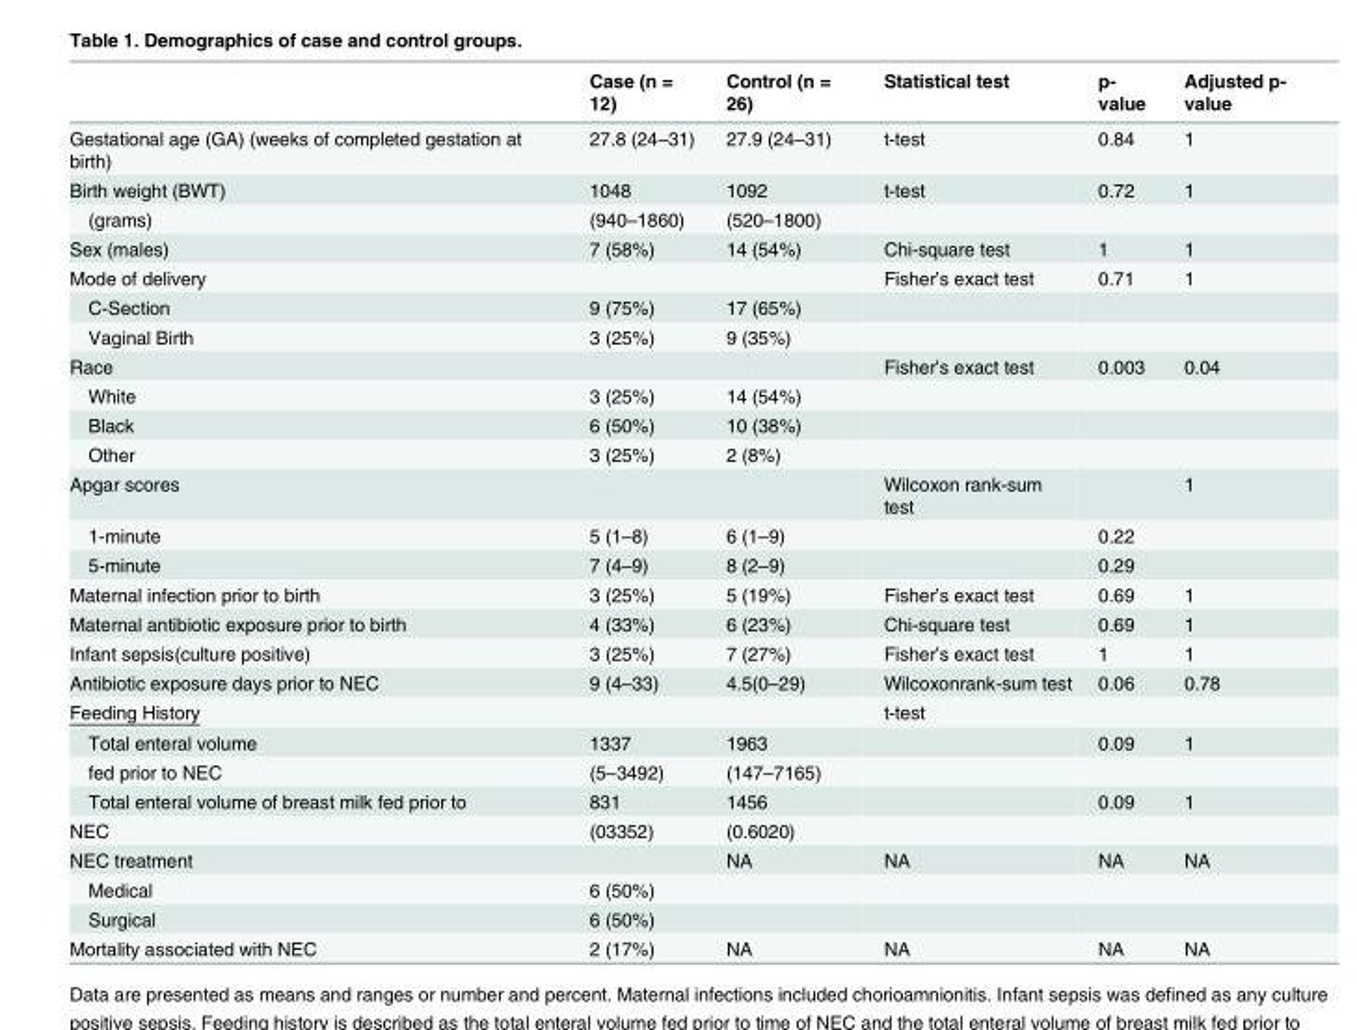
<table><thead><tr><td></td><td>Case (n = 12)</td><td>Control (n = 26)</td><td>Statistical test</td><td>p- value</td><td>Adjusted p- value</td></tr></thead><tbody><tr><td>Gestational age (GA) (weeks of completed gestation at birth)</td><td>27.8 (24–31)</td><td>27.9 (24–31)</td><td>t-test</td><td>0.84</td><td>1</td></tr><tr><td>Birth weight (BWT)</td><td>1048</td><td>1092</td><td>t-test</td><td>0.72</td><td>1</td></tr><tr><td>(grams)</td><td>(940–1860)</td><td>(520–1800)</td><td></td><td></td><td></td></tr><tr><td>Sex (males)</td><td>7 (58%)</td><td>14 (54%)</td><td>Chi-square test</td><td>1</td><td>1</td></tr><tr><td>Mode of delivery</td><td></td><td></td><td>Fisher’s exact test</td><td>0.71</td><td>1</td></tr><tr><td>C-Section</td><td>9 (75%)</td><td>17 (65%)</td><td></td><td></td><td></td></tr><tr><td>Vaginal Birth</td><td>3 (25%)</td><td>9 (35%)</td><td></td><td></td><td></td></tr><tr><td>Race</td><td></td><td></td><td>Fisher’s exact test</td><td>0.003</td><td>0.04</td></tr><tr><td>White</td><td>3 (25%)</td><td>14 (54%)</td><td></td><td></td><td></td></tr><tr><td>Black</td><td>6 (50%)</td><td>10 (38%)</td><td></td><td></td><td></td></tr><tr><td>Other</td><td>3 (25%)</td><td>2 (8%)</td><td></td><td></td><td></td></tr><tr><td>Apgar scores</td><td></td><td></td><td>Wilcoxon rank-sum test</td><td></td><td>1</td></tr><tr><td>1-minute</td><td>5 (1–8)</td><td>6 (1–9)</td><td></td><td>0.22</td><td></td></tr><tr><td>5-minute</td><td>7 (4–9)</td><td>8 (2–9)</td><td></td><td>0.29</td><td></td></tr><tr><td>Maternal infection prior to birth</td><td>3 (25%)</td><td>5 (19%)</td><td>Fisher’s exact test</td><td>0.69</td><td>1</td></tr><tr><td>Maternal antibiotic exposure prior to birth</td><td>4 (33%)</td><td>6 (23%)</td><td>Chi-square test</td><td>0.69</td><td>1</td></tr><tr><td>Infant sepsis(culture positive)</td><td>3 (25%)</td><td>7 (27%)</td><td>Fisher’s exact test</td><td>1</td><td>1</td></tr><tr><td>Antibiotic exposure days prior to NEC</td><td>9 (4–33)</td><td>4.5(0–29)</td><td>Wilcoxonrank-sum test</td><td>0.06</td><td>0.78</td></tr><tr><td>Feeding History</td><td></td><td></td><td>t-test</td><td></td><td></td></tr><tr><td>Total enteral volume</td><td>1337</td><td>1963</td><td></td><td>0.09</td><td>1</td></tr><tr><td>fed prior to NEC</td><td>(5–3492)</td><td>(147–7165)</td><td></td><td></td><td></td></tr><tr><td>Total enteral volume of breast milk fed prior to</td><td>831</td><td>1456</td><td></td><td>0.09</td><td>1</td></tr><tr><td>NEC</td><td>(03352)</td><td>(0.6020)</td><td></td><td></td><td></td></tr><tr><td>NEC treatment</td><td></td><td>NA</td><td>NA</td><td>NA</td><td>NA</td></tr><tr><td>Medical</td><td>6 (50%)</td><td></td><td></td><td></td><td></td></tr><tr><td>Surgical</td><td>6 (50%)</td><td></td><td></td><td></td><td></td></tr><tr><td>Mortality associated with NEC</td><td>2 (17%)</td><td>NA</td><td>NA</td><td>NA</td><td>NA</td></tr></tbody></table>